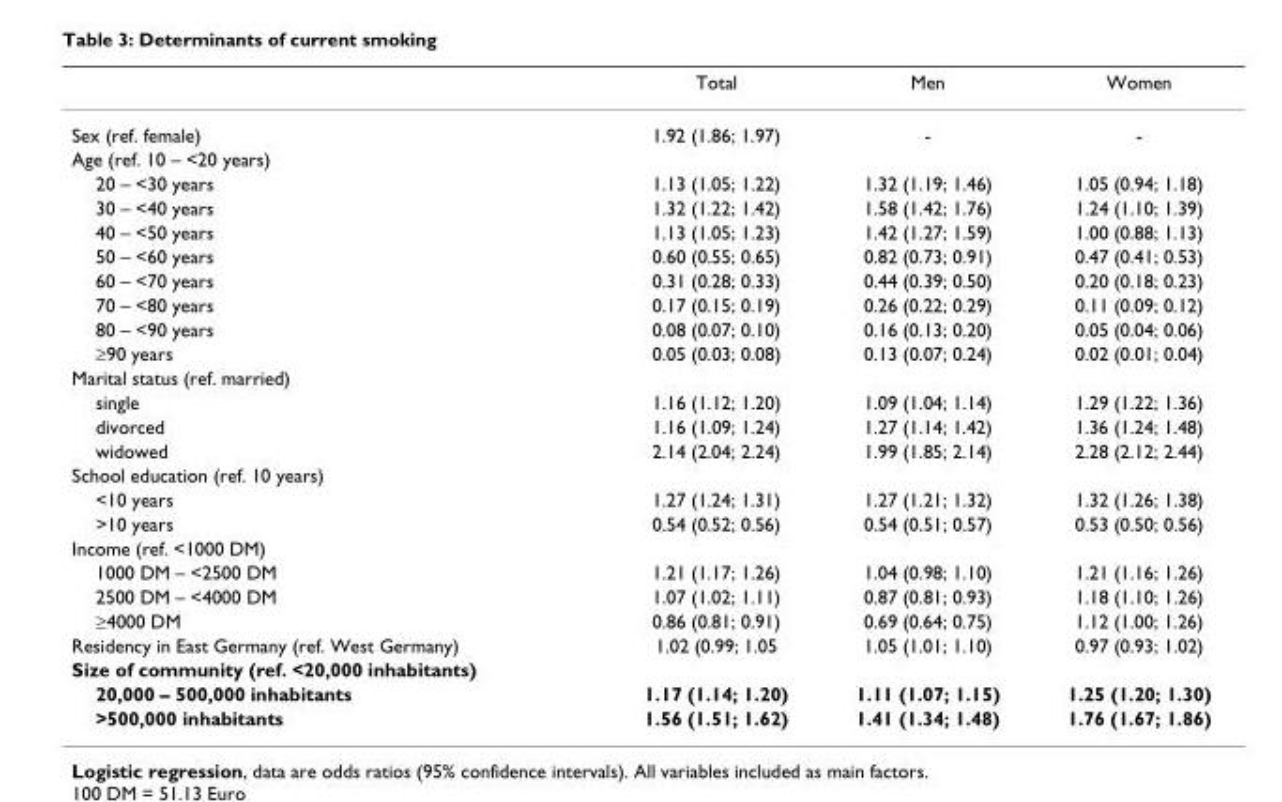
<table><thead><tr><td></td><td>Total</td><td>Men</td><td>Women</td></tr></thead><tbody><tr><td>Sex (ref. female)</td><td>1.92 (1.86; 1.97)</td><td>-</td><td>-</td></tr><tr><td colspan="4">Age (ref. 10 – &lt;20 years)</td></tr><tr><td>20 – &lt;30 years</td><td>1.13 (1.05; 1.22)</td><td>1.32 (1.19; 1.46)</td><td>1.05 (0.94; 1.18)</td></tr><tr><td>30 – &lt;40 years</td><td>1.32 (1.22; 1.42)</td><td>1.58 (1.42; 1.76)</td><td>1.24 (1.10; 1.39)</td></tr><tr><td>40 – &lt;50 years</td><td>1.13 (1.05; 1.23)</td><td>1.42 (1.27; 1.59)</td><td>1.00 (0.88; 1.13)</td></tr><tr><td>50 – &lt;60 years</td><td>0.60 (0.55; 0.65)</td><td>0.82 (0.73; 0.91)</td><td>0.47 (0.41; 0.53)</td></tr><tr><td>60 – &lt;70 years</td><td>0.31 (0.28; 0.33)</td><td>0.44 (0.39; 0.50)</td><td>0.20 (0.18; 0.23)</td></tr><tr><td>70 – &lt;80 years</td><td>0.17 (0.15; 0.19)</td><td>0.26 (0.22; 0.29)</td><td>0.11 (0.09; 0.12)</td></tr><tr><td>80 – &lt;90 years</td><td>0.08 (0.07; 0.10)</td><td>0.16 (0.13; 0.20)</td><td>0.05 (0.04; 0.06)</td></tr><tr><td>≥90 years</td><td>0.05 (0.03; 0.08)</td><td>0.13 (0.07; 0.24)</td><td>0.02 (0.01; 0.04)</td></tr><tr><td colspan="4">Marital status (ref. married)</td></tr><tr><td>single</td><td>1.16 (1.12; 1.20)</td><td>1.09 (1.04; 1.14)</td><td>1.29 (1.22; 1.36)</td></tr><tr><td>divorced</td><td>1.16 (1.09; 1.24)</td><td>1.27 (1.14; 1.42)</td><td>1.36 (1.24; 1.48)</td></tr><tr><td>widowed</td><td>2.14 (2.04; 2.24)</td><td>1.99 (1.85; 2.14)</td><td>2.28 (2.12; 2.44)</td></tr><tr><td colspan="4">School education (ref. 10 years)</td></tr><tr><td>&lt;10 years</td><td>1.27 (1.24; 1.31)</td><td>1.27 (1.21; 1.32)</td><td>1.32 (1.26; 1.38)</td></tr><tr><td>&gt;10 years</td><td>0.54 (0.52; 0.56)</td><td>0.54 (0.51; 0.57)</td><td>0.53 (0.50; 0.56)</td></tr><tr><td colspan="4">Income (ref. &lt;1000 DM)</td></tr><tr><td>1000 DM – &lt;2500 DM</td><td>1.21 (1.17; 1.26)</td><td>1.04 (0.98; 1.10)</td><td>1.21 (1.16; 1.26)</td></tr><tr><td>2500 DM – &lt;4000 DM</td><td>1.07 (1.02; 1.11)</td><td>0.87 (0.81; 0.93)</td><td>1.18 (1.10; 1.26)</td></tr><tr><td>≥4000 DM</td><td>0.86 (0.81; 0.91)</td><td>0.69 (0.64; 0.75)</td><td>1.12 (1.00; 1.26)</td></tr><tr><td>Residency in East Germany (ref. West Germany)</td><td>1.02 (0.99; 1.05</td><td>1.05 (1.01; 1.10)</td><td>0.97 (0.93; 1.02)</td></tr><tr><td colspan="4">Size of community (ref. &lt;20,000 inhabitants)</td></tr><tr><td>20,000 – 500,000 inhabitants</td><td>1.17 (1.14; 1.20)</td><td>1.11 (1.07; 1.15)</td><td>1.25 (1.20; 1.30)</td></tr><tr><td>&gt;500,000 inhabitants</td><td>1.56 (1.51; 1.62)</td><td>1.41 (1.34; 1.48)</td><td>1.76 (1.67; 1.86)</td></tr></tbody></table>